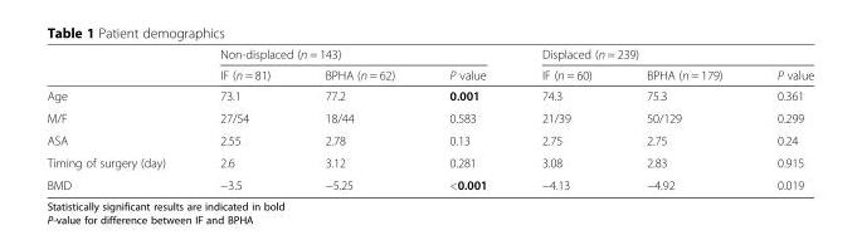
<table><thead><tr><td rowspan="2"></td><td colspan="3">Non-displaced (n = 143)</td><td colspan="3">Displaced (n = 239)</td></tr><tr><td>IF (n = 81)</td><td>BPHA (n = 62)</td><td>P value</td><td>IF (n = 60)</td><td>BPHA (n = 179)</td><td>P value</td></tr></thead><tbody><tr><td>Age</td><td>73.1</td><td>77.2</td><td>0.001</td><td>74.3</td><td>75.3</td><td>0.361</td></tr><tr><td>M/F</td><td>27/54</td><td>18/44</td><td>0.583</td><td>21/39</td><td>50/129</td><td>0.299</td></tr><tr><td>ASA</td><td>2.55</td><td>2.78</td><td>0.13</td><td>2.75</td><td>2.75</td><td>0.24</td></tr><tr><td>Timing of surgery (day)</td><td>2.6</td><td>3.12</td><td>0.281</td><td>3.08</td><td>2.83</td><td>0.915</td></tr><tr><td>BMD</td><td>−3.5</td><td>−5.25</td><td>&lt;0.001</td><td>−4.13</td><td>−4.92</td><td>0.019</td></tr></tbody></table>